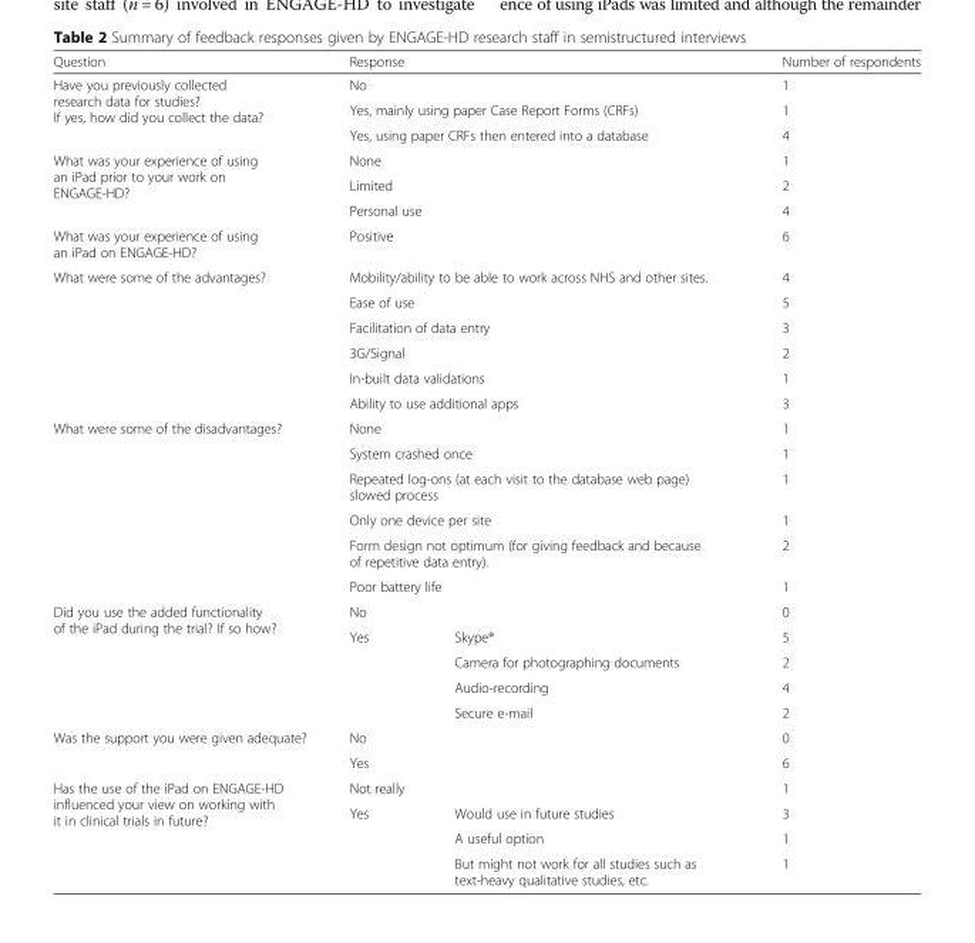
<table><thead><tr><td>Question</td><td colspan="2">Response</td><td>Number of respondents</td></tr></thead><tbody><tr><td rowspan="3">Have you previously collected research data for studies? If yes, how did you collect the data?</td><td colspan="2">No</td><td>1</td></tr><tr><td colspan="2">Yes, mainly using paper Case Report Forms (CRFs)</td><td>1</td></tr><tr><td colspan="2">Yes, using paper CRFs then entered into a database</td><td>4</td></tr><tr><td rowspan="3">What was your experience of using an iPad prior to your work on ENGAGE-HD?</td><td colspan="2">None</td><td>1</td></tr><tr><td colspan="2">Limited</td><td>2</td></tr><tr><td colspan="2">Personal use</td><td>4</td></tr><tr><td>What was your experience of using an iPad on ENGAGE-HD?</td><td colspan="2">Positive</td><td>6</td></tr><tr><td rowspan="6">What were some of the advantages?</td><td colspan="2">Mobility/ability to be able to work across NHS and other sites.</td><td>4</td></tr><tr><td colspan="2">Ease of use</td><td>5</td></tr><tr><td colspan="2">Facilitation of data entry</td><td>3</td></tr><tr><td colspan="2">3G/Signal</td><td>2</td></tr><tr><td colspan="2">In-built data validations</td><td>1</td></tr><tr><td colspan="2">Ability to use additional apps</td><td>3</td></tr><tr><td rowspan="6">What were some of the disadvantages?</td><td colspan="2">None</td><td>1</td></tr><tr><td colspan="2">System crashed once</td><td>1</td></tr><tr><td colspan="2">Repeated log-ons (at each visit to the database web page) slowed process</td><td>1</td></tr><tr><td colspan="2">Only one device per site</td><td>1</td></tr><tr><td colspan="2">Form design not optimum (for giving feedback and because of repetitive data entry).</td><td>2</td></tr><tr><td colspan="2">Poor battery life</td><td>1</td></tr><tr><td rowspan="5">Did you use the added functionality of the iPad during the trial? If so how?</td><td colspan="2">No</td><td>0</td></tr><tr><td rowspan="4">Yes</td><td>Skype®</td><td>5</td></tr><tr><td>Camera for photographing documents</td><td>2</td></tr><tr><td>Audio-recording</td><td>4</td></tr><tr><td>Secure e-mail</td><td>2</td></tr><tr><td rowspan="2">Was the support you were given adequate?</td><td colspan="2">No</td><td>0</td></tr><tr><td colspan="2">Yes</td><td>6</td></tr><tr><td rowspan="4">Has the use of the iPad on ENGAGE-HD influenced your view on working with it in clinical trials in future?</td><td colspan="2">Not really</td><td>1</td></tr><tr><td rowspan="3">Yes</td><td>Would use in future studies</td><td>3</td></tr><tr><td>A useful option</td><td>1</td></tr><tr><td>But might not work for all studies such as text-heavy qualitative studies, etc.</td><td>1</td></tr></tbody></table>